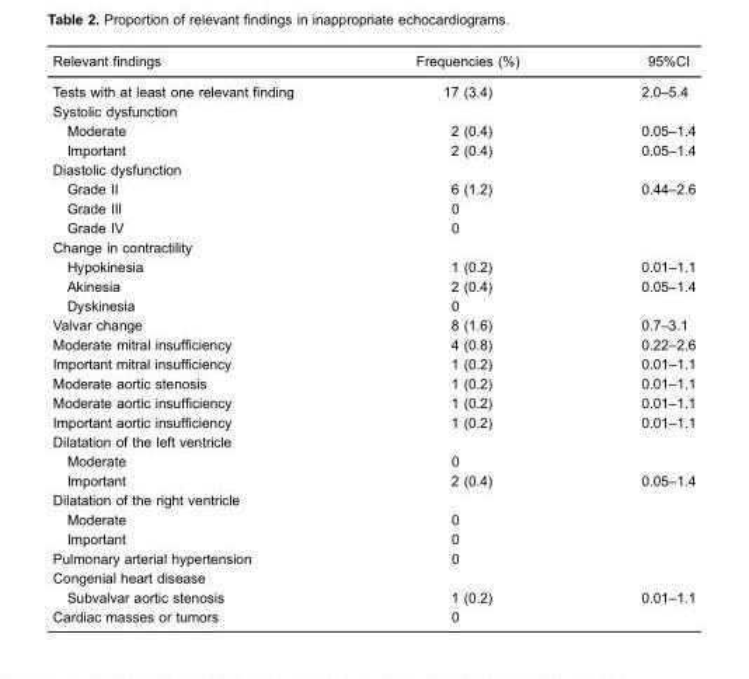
<table><thead><tr><td>Relevant findings</td><td>Frequencies (%)</td><td>95%CI</td></tr></thead><tbody><tr><td>Tests with at least one relevant finding</td><td>17 (3.4)</td><td>2.0–5.4</td></tr><tr><td colspan="3">Systolic dysfunction</td></tr><tr><td>Moderate</td><td>2 (0.4)</td><td>0.05–1.4</td></tr><tr><td>Important</td><td>2 (0.4)</td><td>0.05–1.4</td></tr><tr><td colspan="3">Diastolic dysfunction</td></tr><tr><td>Grade II</td><td>6 (1.2)</td><td>0.44–2.6</td></tr><tr><td>Grade III</td><td>0</td><td></td></tr><tr><td>Grade IV</td><td>0</td><td></td></tr><tr><td colspan="3">Change in contractility</td></tr><tr><td>Hypokinesia</td><td>1 (0.2)</td><td>0.01–1.1</td></tr><tr><td>Akinesia</td><td>2 (0.4)</td><td>0.05–1.4</td></tr><tr><td>Dyskinesia</td><td>0</td><td></td></tr><tr><td>Valvar change</td><td>8 (1.6)</td><td>0.7–3.1</td></tr><tr><td>Moderate mitral insufficiency</td><td>4 (0.8)</td><td>0.22–2.6</td></tr><tr><td>Important mitral insufficiency</td><td>1 (0.2)</td><td>0.01–1.1</td></tr><tr><td>Moderate aortic stenosis</td><td>1 (0.2)</td><td>0.01–1.1</td></tr><tr><td>Moderate aortic insufficiency</td><td>1 (0.2)</td><td>0.01–1.1</td></tr><tr><td>Important aortic insufficiency</td><td>1 (0.2)</td><td>0.01–1.1</td></tr><tr><td colspan="3">Dilatation of the left ventricle</td></tr><tr><td>Moderate</td><td>0</td><td></td></tr><tr><td>Important</td><td>2 (0.4)</td><td>0.05–1.4</td></tr><tr><td colspan="3">Dilatation of the right ventricle</td></tr><tr><td>Moderate</td><td>0</td><td></td></tr><tr><td>Important</td><td>0</td><td></td></tr><tr><td>Pulmonary arterial hypertension</td><td>0</td><td></td></tr><tr><td colspan="3">Congenial heart disease</td></tr><tr><td>Subvalvar aortic stenosis</td><td>1 (0.2)</td><td>0.01–1.1</td></tr><tr><td>Cardiac masses or tumors</td><td>0</td><td></td></tr></tbody></table>